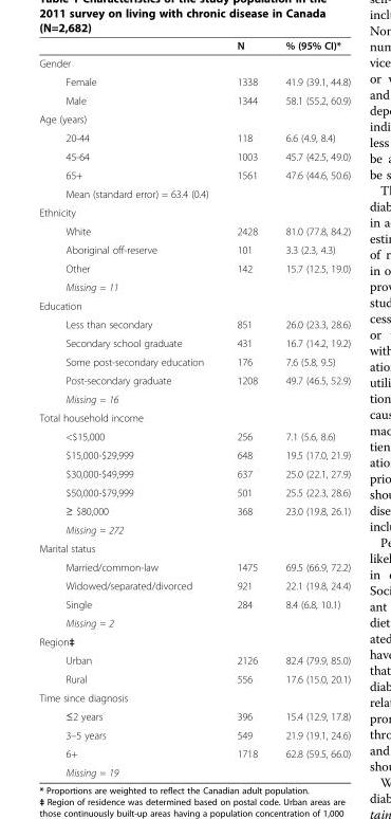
<table><thead><tr><td></td><td>N</td><td>% (95% CI)*</td></tr></thead><tbody><tr><td colspan="3">Gender</td></tr><tr><td>Female</td><td>1338</td><td>41.9 (39.1, 44.8)</td></tr><tr><td>Male</td><td>1344</td><td>58.1 (55.2, 60.9)</td></tr><tr><td colspan="3">Age (years)</td></tr><tr><td>20-44</td><td>118</td><td>6.6 (4.9, 8.4)</td></tr><tr><td>45-64</td><td>1003</td><td>45.7 (42.5, 49.0)</td></tr><tr><td>65+</td><td>1561</td><td>47.6 (44.6, 50.6)</td></tr><tr><td colspan="3">Mean (standard error) = 63.4 (0.4)</td></tr><tr><td colspan="3">Ethnicity</td></tr><tr><td>White</td><td>2428</td><td>81.0 (77.8, 84.2)</td></tr><tr><td>Aboriginal off-reserve</td><td>101</td><td>3.3 (2.3, 4.3)</td></tr><tr><td>Other</td><td>142</td><td>15.7 (12.5, 19.0)</td></tr><tr><td colspan="3">Missing = 11</td></tr><tr><td colspan="3">Education</td></tr><tr><td>Less than secondary</td><td>851</td><td>26.0 (23.3, 28.6)</td></tr><tr><td>Secondary school graduate</td><td>431</td><td>16.7 (14.2, 19.2)</td></tr><tr><td>Some post-secondary education</td><td>176</td><td>7.6 (5.8, 9.5)</td></tr><tr><td>Post-secondary graduate</td><td>1208</td><td>49.7 (46.5, 52.9)</td></tr><tr><td colspan="3">Missing = 16</td></tr><tr><td colspan="3">Total household income</td></tr><tr><td>&lt;$15,000</td><td>256</td><td>7.1 (5.6, 8.6)</td></tr><tr><td>$15,000-$29,999</td><td>648</td><td>19.5 (17.0, 21.9)</td></tr><tr><td>$30,000-$49,999</td><td>637</td><td>25.0 (22.1, 27.9)</td></tr><tr><td>$50,000-$79,999</td><td>501</td><td>25.5 (22.3, 28.6)</td></tr><tr><td>≥ $80,000</td><td>368</td><td>23.0 (19.8, 26.1)</td></tr><tr><td colspan="3">Missing = 272</td></tr><tr><td colspan="3">Marital status</td></tr><tr><td>Married/common-law</td><td>1475</td><td>69.5 (66.9, 72.2)</td></tr><tr><td>Widowed/separated/divorced</td><td>921</td><td>22.1 (19.8, 24.4)</td></tr><tr><td>Single</td><td>284</td><td>8.4 (6.8, 10.1)</td></tr><tr><td colspan="3">Missing = 2</td></tr><tr><td colspan="3">Region‡</td></tr><tr><td>Urban</td><td>2126</td><td>82.4 (79.9, 85.0)</td></tr><tr><td>Rural</td><td>556</td><td>17.6 (15.0, 20.1)</td></tr><tr><td colspan="3">Time since diagnosis</td></tr><tr><td>≤2 years</td><td>396</td><td>15.4 (12.9, 17.8)</td></tr><tr><td>3–5 years</td><td>549</td><td>21.9 (19.1, 24.6)</td></tr><tr><td>6+</td><td>1718</td><td>62.8 (59.5, 66.0)</td></tr><tr><td>Missing = 19</td><td></td><td></td></tr></tbody></table>